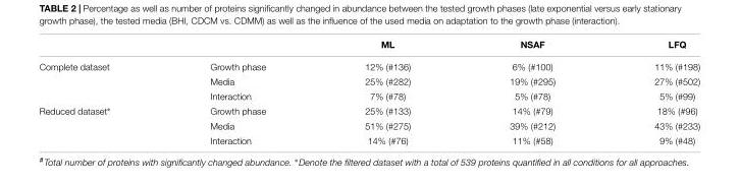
<table><thead><tr><td></td><td></td><td>ML</td><td>NSAF</td><td>LFQ</td></tr></thead><tbody><tr><td rowspan="3">Complete dataset</td><td>Growth phase</td><td>12% (#136)</td><td>6% (#100)</td><td>11% (#198)</td></tr><tr><td>Media</td><td>25% (#282)</td><td>19% (#295)</td><td>27% (#502)</td></tr><tr><td>Interaction</td><td>7% (#78)</td><td>5% (#78)</td><td>5% (#99)</td></tr><tr><td rowspan="3">Reduced dataset∗</td><td>Growth phase</td><td>25% (#133)</td><td>14% (#79)</td><td>18% (#96)</td></tr><tr><td>Media</td><td>51% (#275)</td><td>39% (#212)</td><td>43% (#233)</td></tr><tr><td>Interaction</td><td>14% (#76)</td><td>11% (#58)</td><td>9% (#48)</td></tr></tbody></table>